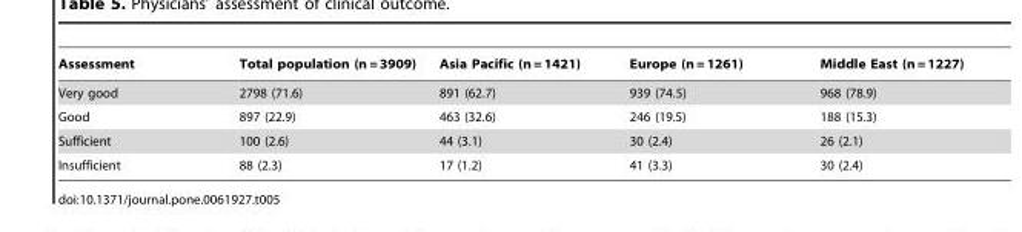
<table><thead><tr><td>Assessment</td><td>Total population (n = 3909)</td><td>Asia Pacific (n = 1421)</td><td>Europe (n = 1261)</td><td>Middle East (n = 1227)</td></tr></thead><tbody><tr><td>Very good</td><td>2798 (71.6)</td><td>891 (62.7)</td><td>939 (74.5)</td><td>968 (78.9)</td></tr><tr><td>Good</td><td>897 (22.9)</td><td>463 (32.6)</td><td>246 (19.5)</td><td>188 (15.3)</td></tr><tr><td>Sufficient</td><td>100 (2.6)</td><td>44 (3.1)</td><td>30 (2.4)</td><td>26 (2.1)</td></tr><tr><td>Insufficient</td><td>88 (2.3)</td><td>17 (1.2)</td><td>41 (3.3)</td><td>30 (2.4)</td></tr></tbody></table>